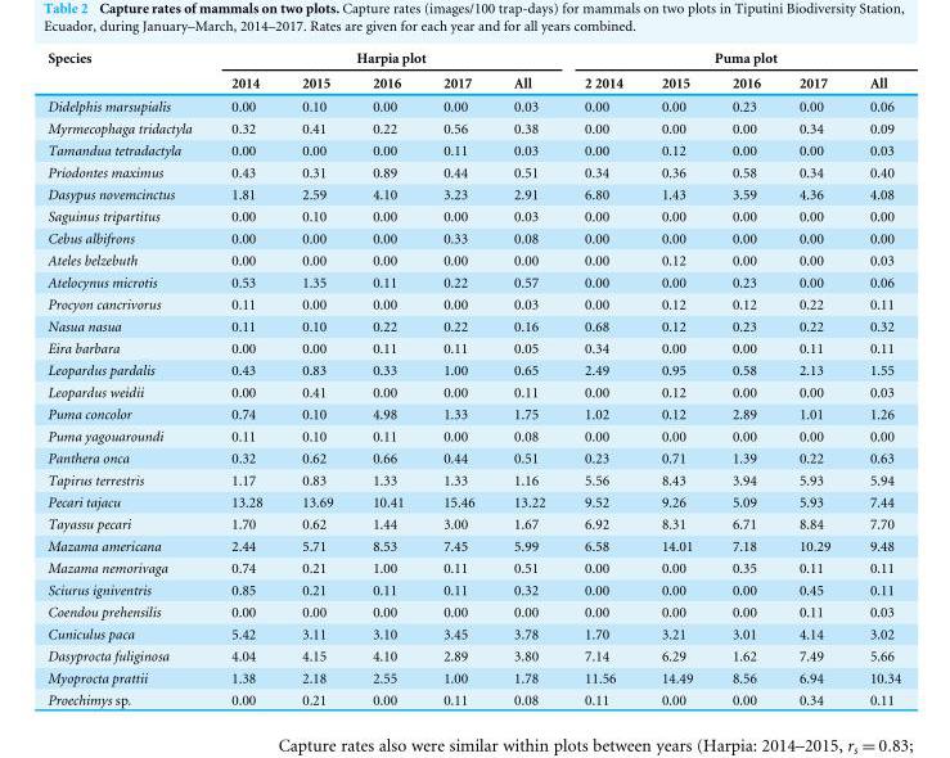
<table><thead><tr><td rowspan="2">Species</td><td colspan="5">Harpia plot</td><td colspan="5">Puma plot</td></tr><tr><td>2014</td><td>2015</td><td>2016</td><td>2017</td><td>All</td><td>2 2014</td><td>2015</td><td>2016</td><td>2017</td><td>All</td></tr></thead><tbody><tr><td>Didelphis marsupialis</td><td>0.00</td><td>0.10</td><td>0.00</td><td>0.00</td><td>0.03</td><td>0.00</td><td>0.00</td><td>0.23</td><td>0.00</td><td>0.06</td></tr><tr><td>Myrmecophaga tridactyla</td><td>0.32</td><td>0.41</td><td>0.22</td><td>0.56</td><td>0.38</td><td>0.00</td><td>0.00</td><td>0.00</td><td>0.34</td><td>0.09</td></tr><tr><td>Tamandua tetradactyla</td><td>0.00</td><td>0.00</td><td>0.00</td><td>0.11</td><td>0.03</td><td>0.00</td><td>0.12</td><td>0.00</td><td>0.00</td><td>0.03</td></tr><tr><td>Priodontes maximus</td><td>0.43</td><td>0.31</td><td>0.89</td><td>0.44</td><td>0.51</td><td>0.34</td><td>0.36</td><td>0.58</td><td>0.34</td><td>0.40</td></tr><tr><td>Dasypus novemcinctus</td><td>1.81</td><td>2.59</td><td>4.10</td><td>3.23</td><td>2.91</td><td>6.80</td><td>1.43</td><td>3.59</td><td>4.36</td><td>4.08</td></tr><tr><td>Saguinus tripartitus</td><td>0.00</td><td>0.10</td><td>0.00</td><td>0.00</td><td>0.03</td><td>0.00</td><td>0.00</td><td>0.00</td><td>0.00</td><td>0.00</td></tr><tr><td>Cebus albifrons</td><td>0.00</td><td>0.00</td><td>0.00</td><td>0.33</td><td>0.08</td><td>0.00</td><td>0.00</td><td>0.00</td><td>0.00</td><td>0.00</td></tr><tr><td>Ateles belzebuth</td><td>0.00</td><td>0.00</td><td>0.00</td><td>0.00</td><td>0.00</td><td>0.00</td><td>0.12</td><td>0.00</td><td>0.00</td><td>0.03</td></tr><tr><td>Atelocynus microtis</td><td>0.53</td><td>1.35</td><td>0.11</td><td>0.22</td><td>0.57</td><td>0.00</td><td>0.00</td><td>0.23</td><td>0.00</td><td>0.06</td></tr><tr><td>Procyon cancrivorus</td><td>0.11</td><td>0.00</td><td>0.00</td><td>0.00</td><td>0.03</td><td>0.00</td><td>0.12</td><td>0.12</td><td>0.22</td><td>0.11</td></tr><tr><td>Nasua nasua</td><td>0.11</td><td>0.10</td><td>0.22</td><td>0.22</td><td>0.16</td><td>0.68</td><td>0.12</td><td>0.23</td><td>0.22</td><td>0.32</td></tr><tr><td>Eira barbara</td><td>0.00</td><td>0.00</td><td>0.11</td><td>0.11</td><td>0.05</td><td>0.34</td><td>0.00</td><td>0.00</td><td>0.11</td><td>0.11</td></tr><tr><td>Leopardus pardalis</td><td>0.43</td><td>0.83</td><td>0.33</td><td>1.00</td><td>0.65</td><td>2.49</td><td>0.95</td><td>0.58</td><td>2.13</td><td>1.55</td></tr><tr><td>Leopardus weidii</td><td>0.00</td><td>0.41</td><td>0.00</td><td>0.00</td><td>0.11</td><td>0.00</td><td>0.12</td><td>0.00</td><td>0.00</td><td>0.03</td></tr><tr><td>Puma concolor</td><td>0.74</td><td>0.10</td><td>4.98</td><td>1.33</td><td>1.75</td><td>1.02</td><td>0.12</td><td>2.89</td><td>1.01</td><td>1.26</td></tr><tr><td>Puma yagouaroundi</td><td>0.11</td><td>0.10</td><td>0.11</td><td>0.00</td><td>0.08</td><td>0.00</td><td>0.00</td><td>0.00</td><td>0.00</td><td>0.00</td></tr><tr><td>Panthera onca</td><td>0.32</td><td>0.62</td><td>0.66</td><td>0.44</td><td>0.51</td><td>0.23</td><td>0.71</td><td>1.39</td><td>0.22</td><td>0.63</td></tr><tr><td>Tapirus terrestris</td><td>1.17</td><td>0.83</td><td>1.33</td><td>1.33</td><td>1.16</td><td>5.56</td><td>8.43</td><td>3.94</td><td>5.93</td><td>5.94</td></tr><tr><td>Pecari tajacu</td><td>13.28</td><td>13.69</td><td>10.41</td><td>15.46</td><td>13.22</td><td>9.52</td><td>9.26</td><td>5.09</td><td>5.93</td><td>7.44</td></tr><tr><td>Tayassu pecari</td><td>1.70</td><td>0.62</td><td>1.44</td><td>3.00</td><td>1.67</td><td>6.92</td><td>8.31</td><td>6.71</td><td>8.84</td><td>7.70</td></tr><tr><td>Mazama americana</td><td>2.44</td><td>5.71</td><td>8.53</td><td>7.45</td><td>5.99</td><td>6.58</td><td>14.01</td><td>7.18</td><td>10.29</td><td>9.48</td></tr><tr><td>Mazama nemorivaga</td><td>0.74</td><td>0.21</td><td>1.00</td><td>0.11</td><td>0.51</td><td>0.00</td><td>0.00</td><td>0.35</td><td>0.11</td><td>0.11</td></tr><tr><td>Sciurus igniventris</td><td>0.85</td><td>0.21</td><td>0.11</td><td>0.11</td><td>0.32</td><td>0.00</td><td>0.00</td><td>0.00</td><td>0.45</td><td>0.11</td></tr><tr><td>Coendou prehensilis</td><td>0.00</td><td>0.00</td><td>0.00</td><td>0.00</td><td>0.00</td><td>0.00</td><td>0.00</td><td>0.00</td><td>0.11</td><td>0.03</td></tr><tr><td>Cuniculus paca</td><td>5.42</td><td>3.11</td><td>3.10</td><td>3.45</td><td>3.78</td><td>1.70</td><td>3.21</td><td>3.01</td><td>4.14</td><td>3.02</td></tr><tr><td>Dasyprocta fuliginosa</td><td>4.04</td><td>4.15</td><td>4.10</td><td>2.89</td><td>3.80</td><td>7.14</td><td>6.29</td><td>1.62</td><td>7.49</td><td>5.66</td></tr><tr><td>Myoprocta prattii</td><td>1.38</td><td>2.18</td><td>2.55</td><td>1.00</td><td>1.78</td><td>11.56</td><td>14.49</td><td>8.56</td><td>6.94</td><td>10.34</td></tr><tr><td>Proechimys sp.</td><td>0.00</td><td>0.21</td><td>0.00</td><td>0.11</td><td>0.08</td><td>0.11</td><td>0.00</td><td>0.00</td><td>0.34</td><td>0.11</td></tr></tbody></table>